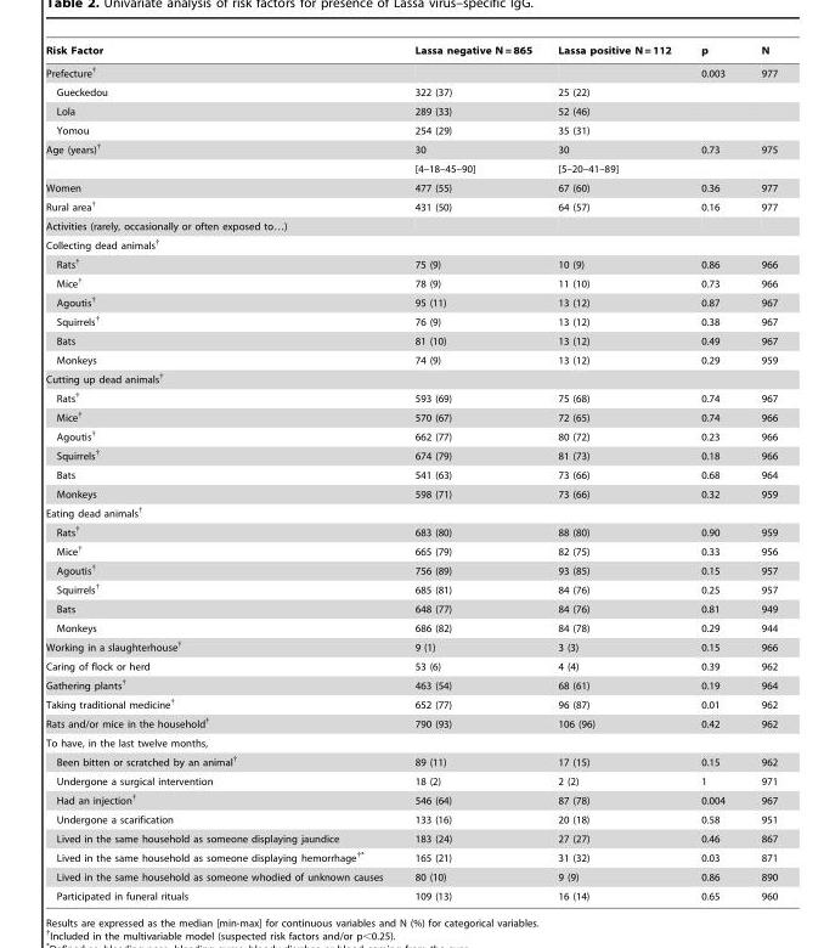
<table><thead><tr><td>Risk Factor</td><td>Lassa negative N = 865</td><td>Lassa positive N = 112</td><td>p</td><td>N</td></tr></thead><tbody><tr><td>Prefecture†</td><td></td><td></td><td>0.003</td><td>977</td></tr><tr><td>Gueckedou</td><td>322 (37)</td><td>25 (22)</td><td></td><td></td></tr><tr><td>Lola</td><td>289 (33)</td><td>52 (46)</td><td></td><td></td></tr><tr><td>Yomou</td><td>254 (29)</td><td>35 (31)</td><td></td><td></td></tr><tr><td rowspan="2">Age (years)†</td><td>30</td><td>30</td><td>0.73</td><td>975</td></tr><tr><td>[4–18–45–90]</td><td>[5–20–41–89]</td><td></td><td></td></tr><tr><td>Women</td><td>477 (55)</td><td>67 (60)</td><td>0.36</td><td>977</td></tr><tr><td>Rural area†</td><td>431 (50)</td><td>64 (57)</td><td>0.16</td><td>977</td></tr><tr><td colspan="5">Activities (rarely, occasionally or often exposed to…)</td></tr><tr><td colspan="5">Collecting dead animals†</td></tr><tr><td>Rats†</td><td>75 (9)</td><td>10 (9)</td><td>0.86</td><td>966</td></tr><tr><td>Mice†</td><td>78 (9)</td><td>11 (10)</td><td>0.73</td><td>966</td></tr><tr><td>Agoutis†</td><td>95 (11)</td><td>13 (12)</td><td>0.87</td><td>967</td></tr><tr><td>Squirrels†</td><td>76 (9)</td><td>13 (12)</td><td>0.38</td><td>967</td></tr><tr><td>Bats</td><td>81 (10)</td><td>13 (12)</td><td>0.49</td><td>967</td></tr><tr><td>Monkeys</td><td>74 (9)</td><td>13 (12)</td><td>0.29</td><td>959</td></tr><tr><td colspan="5">Cutting up dead animals†</td></tr><tr><td>Rats†</td><td>593 (69)</td><td>75 (68)</td><td>0.74</td><td>967</td></tr><tr><td>Mice†</td><td>570 (67)</td><td>72 (65)</td><td>0.74</td><td>966</td></tr><tr><td>Agoutis†</td><td>662 (77)</td><td>80 (72)</td><td>0.23</td><td>966</td></tr><tr><td>Squirrels†</td><td>674 (79)</td><td>81 (73)</td><td>0.18</td><td>966</td></tr><tr><td>Bats</td><td>541 (63)</td><td>73 (66)</td><td>0.68</td><td>964</td></tr><tr><td>Monkeys</td><td>598 (71)</td><td>73 (66)</td><td>0.32</td><td>959</td></tr><tr><td colspan="5">Eating dead animals†</td></tr><tr><td>Rats†</td><td>683 (80)</td><td>88 (80)</td><td>0.90</td><td>959</td></tr><tr><td>Mice†</td><td>665 (79)</td><td>82 (75)</td><td>0.33</td><td>956</td></tr><tr><td>Agoutis†</td><td>756 (89)</td><td>93 (85)</td><td>0.15</td><td>957</td></tr><tr><td>Squirrels†</td><td>685 (81)</td><td>84 (76)</td><td>0.25</td><td>957</td></tr><tr><td>Bats</td><td>648 (77)</td><td>84 (76)</td><td>0.81</td><td>949</td></tr><tr><td>Monkeys</td><td>686 (82)</td><td>84 (78)</td><td>0.29</td><td>944</td></tr><tr><td>Working in a slaughterhouse†</td><td>9 (1)</td><td>3 (3)</td><td>0.15</td><td>966</td></tr><tr><td>Caring of flock or herd</td><td>53 (6)</td><td>4 (4)</td><td>0.39</td><td>962</td></tr><tr><td>Gathering plants†</td><td>463 (54)</td><td>68 (61)</td><td>0.19</td><td>964</td></tr><tr><td>Taking traditional medicine†</td><td>652 (77)</td><td>96 (87)</td><td>0.01</td><td>962</td></tr><tr><td>Rats and/or mice in the household†</td><td>790 (93)</td><td>106 (96)</td><td>0.42</td><td>962</td></tr><tr><td colspan="5">To have, in the last twelve months,</td></tr><tr><td>Been bitten or scratched by an animal†</td><td>89 (11)</td><td>17 (15)</td><td>0.15</td><td>962</td></tr><tr><td>Undergone a surgical intervention</td><td>18 (2)</td><td>2 (2)</td><td>1</td><td>971</td></tr><tr><td>Had an injection†</td><td>546 (64)</td><td>87 (78)</td><td>0.004</td><td>967</td></tr><tr><td>Undergone a scarification</td><td>133 (16)</td><td>20 (18)</td><td>0.58</td><td>951</td></tr><tr><td>Lived in the same household as someone displaying jaundice</td><td>183 (24)</td><td>27 (27)</td><td>0.46</td><td>867</td></tr><tr><td>Lived in the same household as someone displaying hemorrhage†*</td><td>165 (21)</td><td>31 (32)</td><td>0.03</td><td>871</td></tr><tr><td>Lived in the same household as someone whodied of unknown causes</td><td>80 (10)</td><td>9 (9)</td><td>0.86</td><td>890</td></tr><tr><td>Participated in funeral rituals</td><td>109 (13)</td><td>16 (14)</td><td>0.65</td><td>960</td></tr></tbody></table>